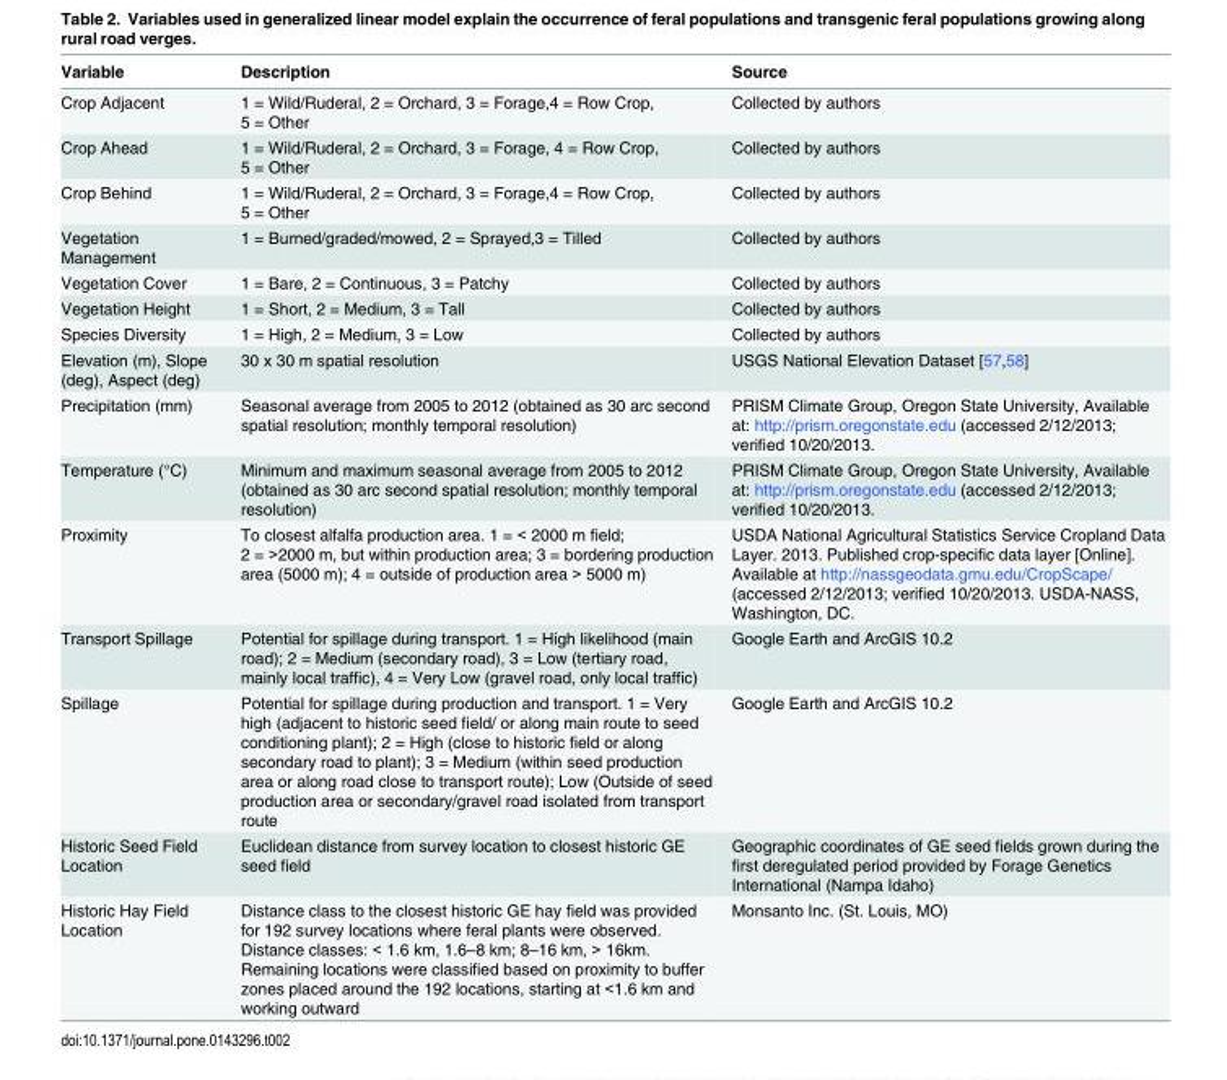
<table><thead><tr><td>Variable</td><td>Description</td><td>Source</td></tr></thead><tbody><tr><td>Crop Adjacent</td><td>1 = Wild/Ruderal, 2 = Orchard, 3 = Forage,4 = Row Crop, 5 = Other</td><td>Collected by authors</td></tr><tr><td>Crop Ahead</td><td>1 = Wild/Ruderal, 2 = Orchard, 3 = Forage, 4 = Row Crop, 5 = Other</td><td>Collected by authors</td></tr><tr><td>Crop Behind</td><td>1 = Wild/Ruderal, 2 = Orchard, 3 = Forage,4 = Row Crop, 5 = Other</td><td>Collected by authors</td></tr><tr><td>Vegetation Management</td><td>1 = Burned/graded/mowed, 2 = Sprayed,3 = Tilled</td><td>Collected by authors</td></tr><tr><td>Vegetation Cover</td><td>1 = Bare, 2 = Continuous, 3 = Patchy</td><td>Collected by authors</td></tr><tr><td>Vegetation Height</td><td>1 = Short, 2 = Medium, 3 = Tall</td><td>Collected by authors</td></tr><tr><td>Species Diversity</td><td>1 = High, 2 = Medium, 3 = Low</td><td>Collected by authors</td></tr><tr><td>Elevation (m), Slope (deg), Aspect (deg)</td><td>30 x 30 m spatial resolution</td><td>USGS National Elevation Dataset [57,58]</td></tr><tr><td>Precipitation (mm)</td><td>Seasonal average from 2005 to 2012 (obtained as 30 arc second spatial resolution; monthly temporal resolution)</td><td>PRISM Climate Group, Oregon State University, Available at: http://prism.oregonstate.edu (accessed 2/12/2013; verified 10/20/2013.</td></tr><tr><td>Temperature (°C)</td><td>Minimum and maximum seasonal average from 2005 to 2012 (obtained as 30 arc second spatial resolution; monthly temporal resolution)</td><td>PRISM Climate Group, Oregon State University, Available at: http://prism.oregonstate.edu (accessed 2/12/2013; verified 10/20/2013.</td></tr><tr><td>Proximity</td><td>To closest alfalfa production area. 1 = &lt; 2000 m field; 2 = &gt;2000 m, but within production area; 3 = bordering production area (5000 m); 4 = outside of production area &gt; 5000 m)</td><td>USDA National Agricultural Statistics Service Cropland Data Layer. 2013. Published crop-specific data layer [Online]. Available at http://nassgeodata.gmu.edu/CropScape/ (accessed 2/12/2013; verified 10/20/2013. USDA-NASS, Washington, DC.</td></tr><tr><td>Transport Spillage</td><td>Potential for spillage during transport. 1 = High likelihood (main road); 2 = Medium (secondary road), 3 = Low (tertiary road, mainly local traffic), 4 = Very Low (gravel road, only local traffic)</td><td>Google Earth and ArcGIS 10.2</td></tr><tr><td>Spillage</td><td>Potential for spillage during production and transport. 1 = Very high (adjacent to historic seed field/ or along main route to seed conditioning plant); 2 = High (close to historic field or along secondary road to plant); 3 = Medium (within seed production area or along road close to transport route); Low (Outside of seed production area or secondary/gravel road isolated from transport route</td><td>Google Earth and ArcGIS 10.2</td></tr><tr><td>Historic Seed Field Location</td><td>Euclidean distance from survey location to closest historic GE seed field</td><td>Geographic coordinates of GE seed fields grown during the first deregulated period provided by Forage Genetics International (Nampa Idaho)</td></tr><tr><td>Historic Hay Field Location</td><td>Distance class to the closest historic GE hay field was provided for 192 survey locations where feral plants were observed. Distance classes: &lt; 1.6 km, 1.6–8 km; 8–16 km, &gt; 16km. Remaining locations were classified based on proximity to buffer zones placed around the 192 locations, starting at &lt;1.6 km and working outward</td><td>Monsanto Inc. (St. Louis, MO)</td></tr></tbody></table>